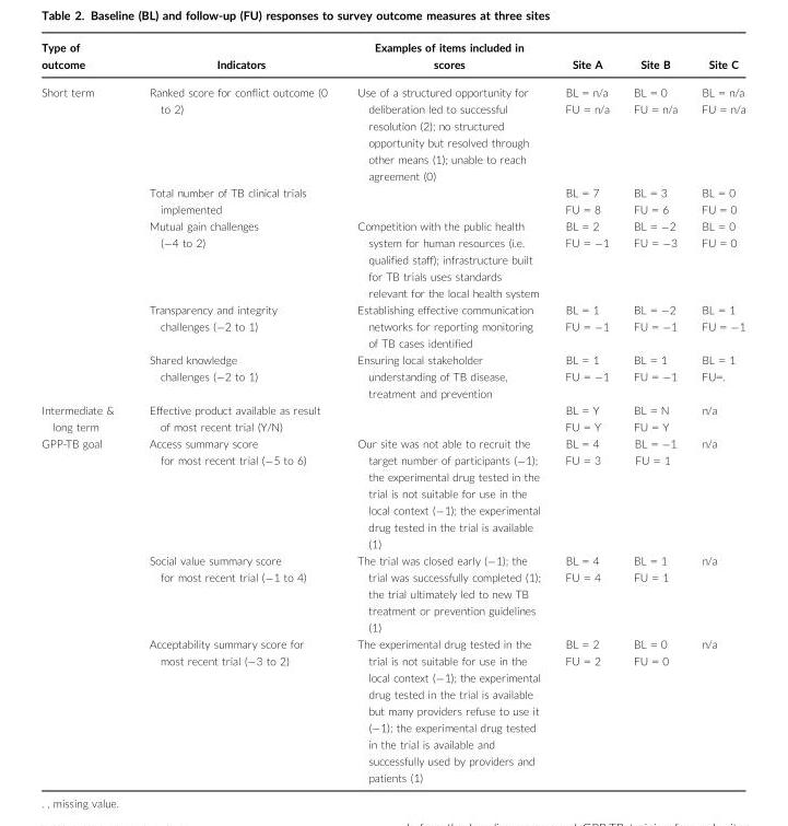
<table><thead><tr><td>Type of outcome</td><td>Indicators</td><td>Examples of items included in scores</td><td>Site A</td><td>Site B</td><td>Site C</td></tr></thead><tbody><tr><td rowspan="5">Short term</td><td>Ranked score for conflict outcome (0 to 2)</td><td>Use of a structured opportunity for deliberation led to successful resolution (2); no structured opportunity but resolved through other means (1); unable to reach agreement (0)</td><td>BL = n/a FU = n/a</td><td>BL = 0 FU = n/a</td><td>BL = n/a FU = n/a</td></tr><tr><td>Total number of TB clinical trials implemented</td><td></td><td>BL = 7 FU = 8</td><td>BL = 3 FU = 6</td><td>BL = 0 FU = 0</td></tr><tr><td>Mutual gain challenges (−4 to 2)</td><td>Competition with the public health system for human resources (i.e. qualified staff); infrastructure built for TB trials uses standards relevant for the local health system</td><td>BL = 2 FU = −1</td><td>BL = −2 FU = −3</td><td>BL = 0 FU = 0</td></tr><tr><td>Transparency and integrity challenges (−2 to 1)</td><td>Establishing effective communication networks for reporting monitoring of TB cases identified</td><td>BL = 1 FU = −1</td><td>BL = −2 FU = −1</td><td>BL = 1 FU = −1</td></tr><tr><td>Shared knowledge challenges (−2 to 1)</td><td>Ensuring local stakeholder understanding of TB disease, treatment and prevention</td><td>BL = 1 FU = −1</td><td>BL = 1 FU = −1</td><td>BL = 1 FU=.</td></tr><tr><td>Intermediate &amp; long term</td><td>Effective product available as result of most recent trial (Y/N)</td><td></td><td>BL = Y FU = Y</td><td>BL = N FU = Y</td><td>n/a</td></tr><tr><td rowspan="3">GPP-TB goal</td><td>Access summary score for most recent trial (−5 to 6)</td><td>Our site was not able to recruit the target number of participants (−1); the experimental drug tested in the trial is not suitable for use in the local context (−1); the experimental drug tested in the trial is available (1)</td><td>BL = 4 FU = 3</td><td>BL = −1 FU = 1</td><td>n/a</td></tr><tr><td>Social value summary score for most recent trial (−1 to 4)</td><td>The trial was closed early (−1); the trial was successfully completed (1); the trial ultimately led to new TB treatment or prevention guidelines (1)</td><td>BL = 4 FU = 4</td><td>BL = 1 FU = 1</td><td>n/a</td></tr><tr><td>Acceptability summary score for most recent trial (−3 to 2)</td><td>The experimental drug tested in the trial is not suitable for use in the local context (−1); the experimental drug tested in the trial is available but many providers refuse to use it (−1); the experimental drug tested in the trial is available and successfully used by providers and patients (1)</td><td>BL = 2 FU = 2</td><td>BL = 0 FU = 0</td><td>n/a</td></tr></tbody></table>